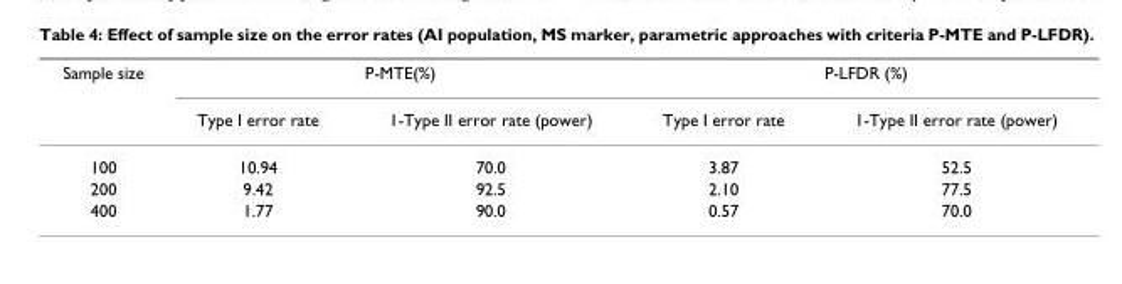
<table><thead><tr><td rowspan="2">Sample size</td><td colspan="2">P-MTE(%)</td><td colspan="2">P-LFDR (%)</td></tr><tr><td>Type I error rate</td><td>1-Type II error rate (power)</td><td>Type I error rate</td><td>1-Type II error rate (power)</td></tr></thead><tbody><tr><td>100</td><td>10.94</td><td>70.0</td><td>3.87</td><td>52.5</td></tr><tr><td>200</td><td>9.42</td><td>92.5</td><td>2.10</td><td>77.5</td></tr><tr><td>400</td><td>1.77</td><td>90.0</td><td>0.57</td><td>70.0</td></tr></tbody></table>